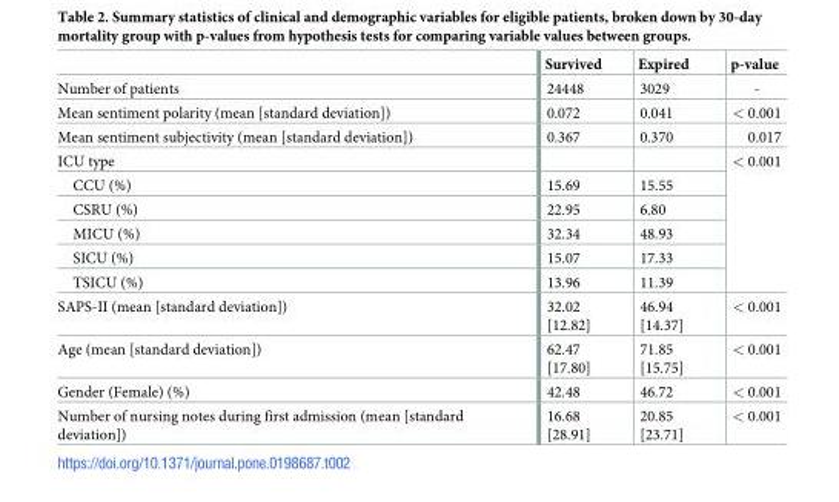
<table><thead><tr><td></td><td>Survived</td><td>Expired</td><td>p-value</td></tr></thead><tbody><tr><td>Number of patients</td><td>24448</td><td>3029</td><td>-</td></tr><tr><td>Mean sentiment polarity (mean [standard deviation])</td><td>0.072</td><td>0.041</td><td>&lt; 0.001</td></tr><tr><td>Mean sentiment subjectivity (mean [standard deviation])</td><td>0.367</td><td>0.370</td><td>0.017</td></tr><tr><td colspan="3">ICU type</td><td rowspan="6">&lt; 0.001</td></tr><tr><td>CCU (%)</td><td>15.69</td><td>15.55</td></tr><tr><td>CSRU (%)</td><td>22.95</td><td>6.80</td></tr><tr><td>MICU (%)</td><td>32.34</td><td>48.93</td></tr><tr><td>SICU (%)</td><td>15.07</td><td>17.33</td></tr><tr><td>TSICU (%)</td><td>13.96</td><td>11.39</td></tr><tr><td>SAPS-II (mean [standard deviation])</td><td>32.02 [12.82]</td><td>46.94 [14.37]</td><td>&lt; 0.001</td></tr><tr><td>Age (mean [standard deviation])</td><td>62.47 [17.80]</td><td>71.85 [15.75]</td><td>&lt; 0.001</td></tr><tr><td>Gender (Female) (%)</td><td>42.48</td><td>46.72</td><td>&lt; 0.001</td></tr><tr><td>Number of nursing notes during first admission (mean [standard deviation])</td><td>16.68 [28.91]</td><td>20.85 [23.71]</td><td>&lt; 0.001</td></tr></tbody></table>